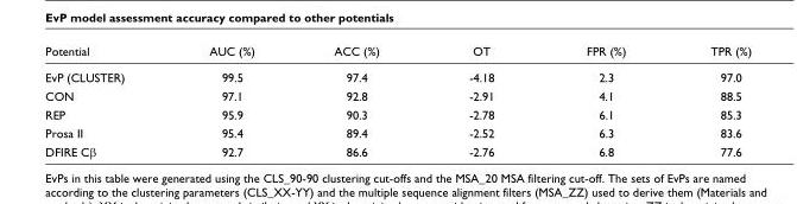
<table><thead><tr><td>Potential</td><td>AUC (%)</td><td>ACC (%)</td><td>OT</td><td>FPR (%)</td><td>TPR (%)</td></tr></thead><tbody><tr><td>EvP (CLUSTER)</td><td>99.5</td><td>97.4</td><td>-4.18</td><td>2.3</td><td>97.0</td></tr><tr><td>CON</td><td>97.1</td><td>92.8</td><td>-2.91</td><td>4.1</td><td>88.5</td></tr><tr><td>REP</td><td>95.9</td><td>90.3</td><td>-2.78</td><td>6.1</td><td>85.3</td></tr><tr><td>Prosa II</td><td>95.4</td><td>89.4</td><td>-2.52</td><td>6.3</td><td>83.6</td></tr><tr><td>DFIRE Cβ</td><td>92.7</td><td>86.6</td><td>-2.76</td><td>6.8</td><td>77.6</td></tr></tbody></table>